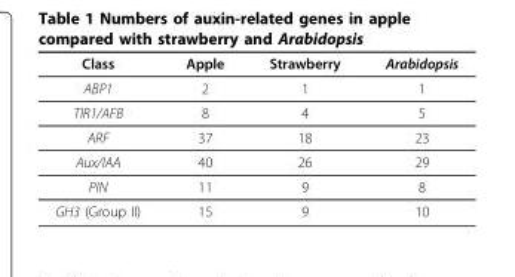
<table><thead><tr><td>Class</td><td>Apple</td><td>Strawberry</td><td>Arabidopsis</td></tr></thead><tbody><tr><td>ABP1</td><td>2</td><td>1</td><td>1</td></tr><tr><td>TIR1/AFB</td><td>8</td><td>4</td><td>5</td></tr><tr><td>ARF</td><td>37</td><td>18</td><td>23</td></tr><tr><td>Aux/IAA</td><td>40</td><td>26</td><td>29</td></tr><tr><td>PIN</td><td>11</td><td>9</td><td>8</td></tr><tr><td>GH3 (Group II)</td><td>15</td><td>9</td><td>10</td></tr></tbody></table>